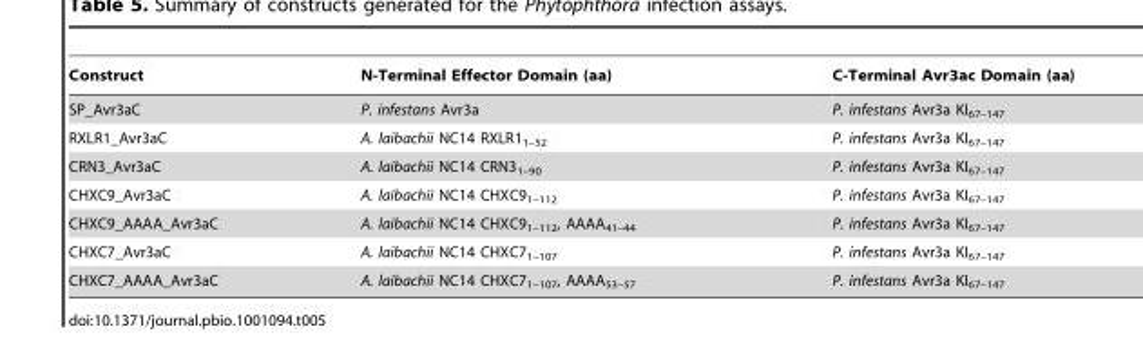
<table><thead><tr><td>Construct</td><td>N-Terminal Effector Domain (aa)</td><td>C-Terminal Avr3ac Domain (aa)</td></tr></thead><tbody><tr><td>SP_Avr3aC</td><td>P. infestans Avr3a</td><td>P. infestans Avr3a KI<sub>67–147</sub></td></tr><tr><td>RXLR1_Avr3aC</td><td>A. laibachii NC14 RXLR1<sub>1–52</sub></td><td>P. infestans Avr3a KI<sub>67–147</sub></td></tr><tr><td>CRN3_Avr3aC</td><td>A. laibachii NC14 CRN3<sub>1–90</sub></td><td>P. infestans Avr3a KI<sub>67–147</sub></td></tr><tr><td>CHXC9_Avr3aC</td><td>A. laibachii NC14 CHXC9<sub>1–112</sub></td><td>P. infestans Avr3a KI<sub>67–147</sub></td></tr><tr><td>CHXC9_AAAA_Avr3aC</td><td>A. laibachii NC14 CHXC9<sub>1–112</sub>, AAAA<sub>41–44</sub></td><td>P. infestans Avr3a KI<sub>67–147</sub></td></tr><tr><td>CHXC7_Avr3aC</td><td>A. laibachii NC14 CHXC7<sub>1–107</sub></td><td>P. infestans Avr3a KI<sub>67–147</sub></td></tr><tr><td>CHXC7_AAAA_Avr3aC</td><td>A. laibachii NC14 CHXC7<sub>1–107</sub>, AAAA<sub>53–57</sub></td><td>P. infestans Avr3a KI<sub>67–147</sub></td></tr></tbody></table>